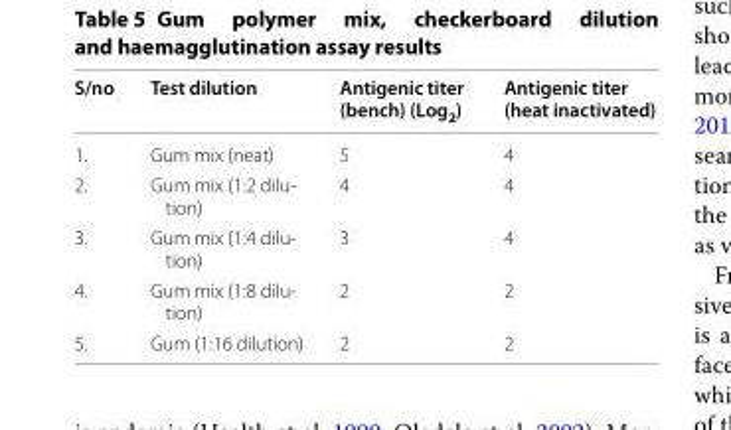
<table><thead><tr><td>S/no</td><td>Test dilution</td><td>Antigenic titer (bench) (Log<sub>2</sub>)</td><td>Antigenic titer (heat inactivated)</td></tr></thead><tbody><tr><td>1.</td><td>Gum mix (neat)</td><td>5</td><td>4</td></tr><tr><td>2.</td><td>Gum mix (1:2 dilu- tion)</td><td>4</td><td>4</td></tr><tr><td>3.</td><td>Gum mix (1:4 dilu- tion)</td><td>3</td><td>4</td></tr><tr><td>4.</td><td>Gum mix (1:8 dilu- tion)</td><td>2</td><td>2</td></tr><tr><td>5.</td><td>Gum (1:16 dilution)</td><td>2</td><td>2</td></tr></tbody></table>